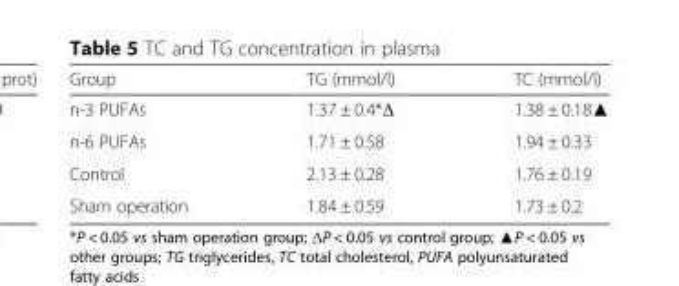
<table><thead><tr><td>Group</td><td>TG (mmol/l)</td><td>TC (mmol/l)</td></tr></thead><tbody><tr><td>n-3 PUFAs</td><td>1.37 ± 0.4*Δ</td><td>1.38 ± 0.18▲</td></tr><tr><td>n-6 PUFAs</td><td>1.71 ± 0.58</td><td>1.94 ± 0.33</td></tr><tr><td>Control</td><td>2.13 ± 0.28</td><td>1.76 ± 0.19</td></tr><tr><td>Sham operation</td><td>1.84 ± 0.59</td><td>1.73 ± 0.2</td></tr></tbody></table>